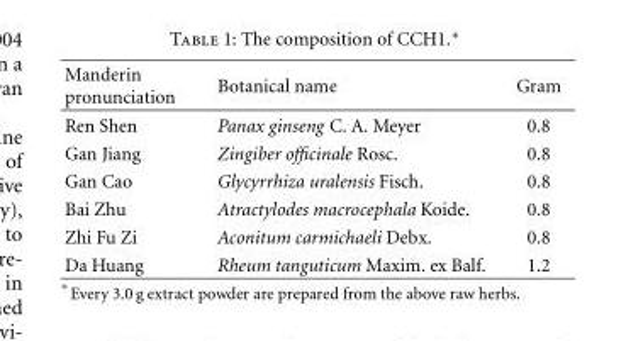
<table><thead><tr><td>Manderin pronunciation</td><td>Botanical name</td><td>Gram</td></tr></thead><tbody><tr><td>Ren Shen</td><td>Panax ginseng C. A. Meyer</td><td>0.8</td></tr><tr><td>Gan Jiang</td><td>Zingiber officinale Rosc.</td><td>0.8</td></tr><tr><td>Gan Cao</td><td>Glycyrrhiza uralensis Fisch.</td><td>0.8</td></tr><tr><td>Bai Zhu</td><td>Atractylodes macrocephala Koide.</td><td>0.8</td></tr><tr><td>Zhi Fu Zi</td><td>Aconitum carmichaeli Debx.</td><td>0.8</td></tr><tr><td>Da Huang</td><td>Rheum tanguticum Maxim. ex Balf.</td><td>1.2</td></tr></tbody></table>